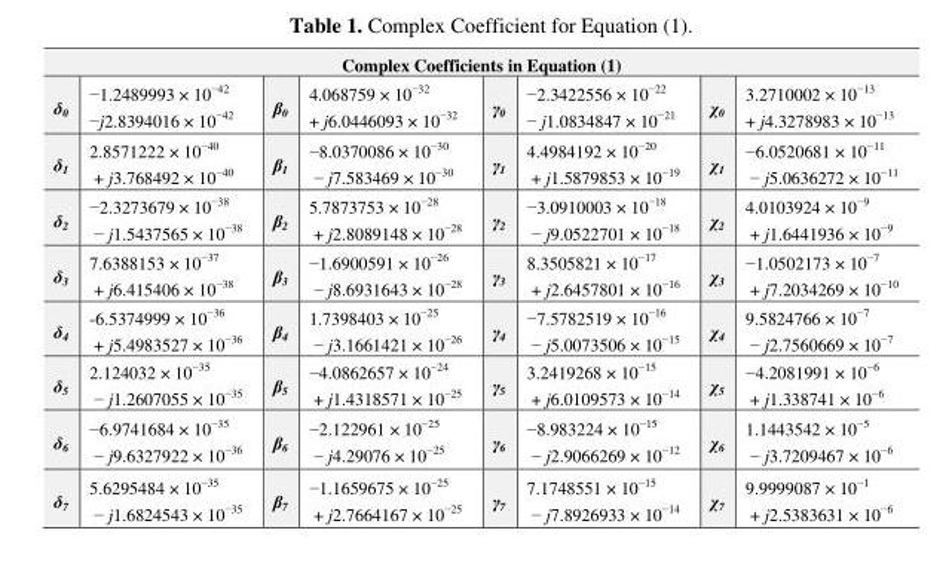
<table><thead><tr><td colspan="8">Complex Coefficients in Equation (1)</td></tr><tr><td>δ<sub>0</sub></td><td>−1.2489993 × 10<sup>−42</sup> −j2.8394016 × 10<sup>−42</sup></td><td>β<sub>0</sub></td><td>4.068759 × 10<sup>−32</sup> + j6.0446093 × 10<sup>−32</sup></td><td>γ<sub>0</sub></td><td>−2.3422556 × 10<sup>−22</sup> − j1.0834847 × 10<sup>−21</sup></td><td>χ<sub>0</sub></td><td>3.2710002 × 10<sup>−13</sup> + j4.3278983 × 10<sup>−13</sup></td></tr></thead><tbody><tr><td>δ<sub>1</sub></td><td>2.8571222 × 10<sup>−40</sup> + j3.768492 × 10<sup>−40</sup></td><td>β<sub>1</sub></td><td>−8.0370086 × 10<sup>−30</sup> − j7.583469 × 10<sup>−30</sup></td><td>γ<sub>1</sub></td><td>4.4984192 × 10<sup>−20</sup> + j1.5879853 × 10<sup>−19</sup></td><td>χ<sub>1</sub></td><td>−6.0520681 × 10<sup>−11</sup> − j5.0636272 × 10<sup>−11</sup></td></tr><tr><td>δ<sub>2</sub></td><td>−2.3273679 × 10<sup>−38</sup> − j1.5437565 × 10<sup>−38</sup></td><td>β<sub>2</sub></td><td>5.7873753 × 10<sup>−28</sup> + j2.8089148 × 10<sup>−28</sup></td><td>γ<sub>2</sub></td><td>−3.0910003 × 10<sup>−18</sup> − j9.0522701 × 10<sup>−18</sup></td><td>χ<sub>2</sub></td><td>4.0103924 × 10<sup>−9</sup> + j1.6441936 × 10<sup>−9</sup></td></tr><tr><td>δ<sub>3</sub></td><td>7.6388153 × 10<sup>−37</sup> + j6.415406 × 10<sup>−38</sup></td><td>β<sub>3</sub></td><td>−1.6900591 × 10<sup>−26</sup> − j8.6931643 × 10<sup>−28</sup></td><td>γ<sub>3</sub></td><td>8.3505821 × 10<sup>−17</sup> + j2.6457801 × 10<sup>−16</sup></td><td>χ<sub>3</sub></td><td>−1.0502173 × 10<sup>−7</sup> + j7.2034269 × 10<sup>−10</sup></td></tr><tr><td>δ<sub>4</sub></td><td>-6.5374999 × 10<sup>−36</sup> + j5.4983527 × 10<sup>−36</sup></td><td>β<sub>4</sub></td><td>1.7398403 × 10<sup>−25</sup> − j3.1661421 × 10<sup>−26</sup></td><td>γ<sub>4</sub></td><td>−7.5782519 × 10<sup>−16</sup> − j5.0073506 × 10<sup>−15</sup></td><td>χ<sub>4</sub></td><td>9.5824766 × 10<sup>−7</sup> − j2.7560669 × 10<sup>−7</sup></td></tr><tr><td>δ<sub>5</sub></td><td>2.124032 × 10<sup>−35</sup> − j1.2607055 × 10<sup>−35</sup></td><td>β<sub>5</sub></td><td>−4.0862657 × 10<sup>−24</sup> + j1.4318571 × 10<sup>−25</sup></td><td>γ<sub>5</sub></td><td>3.2419268 × 10<sup>−15</sup> + j6.0109573 × 10<sup>−14</sup></td><td>χ<sub>5</sub></td><td>−4.2081991 × 10<sup>−6</sup> + j1.338741 × 10<sup>−6</sup></td></tr><tr><td>δ<sub>6</sub></td><td>−6.9741684 × 10<sup>−35</sup> − j9.6327922 × 10<sup>−36</sup></td><td>β<sub>6</sub></td><td>−2.122961 × 10<sup>−25</sup> − j4.29076 × 10<sup>−25</sup></td><td>γ<sub>6</sub></td><td>−8.983224 × 10<sup>−15</sup> − j2.9066269 × 10<sup>−12</sup></td><td>χ<sub>6</sub></td><td>1.1443542 × 10<sup>−5</sup> − j3.7209467 × 10<sup>−6</sup></td></tr><tr><td>δ<sub>7</sub></td><td>5.6295484 × 10<sup>−35</sup> − j1.6824543 × 10<sup>−35</sup></td><td>β<sub>7</sub></td><td>−1.1659675 × 10<sup>−25</sup> + j2.7664167 × 10<sup>−25</sup></td><td>γ<sub>7</sub></td><td>7.1748551 × 10<sup>−15</sup> − j7.8926933 × 10<sup>−14</sup></td><td>χ<sub>7</sub></td><td>9.9999087 × 10<sup>−1</sup> + j2.5383631 × 10<sup>−6</sup></td></tr></tbody></table>